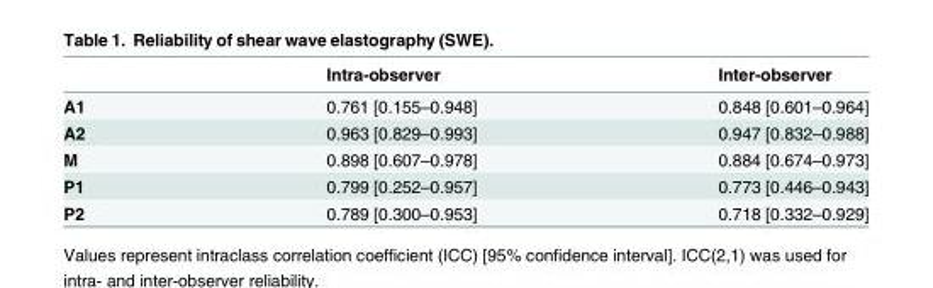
<table><thead><tr><td></td><td>Intra-observer</td><td>Inter-observer</td></tr></thead><tbody><tr><td>A1</td><td>0.761 [0.155–0.948]</td><td>0.848 [0.601–0.964]</td></tr><tr><td>A2</td><td>0.963 [0.829–0.993]</td><td>0.947 [0.832–0.988]</td></tr><tr><td>M</td><td>0.898 [0.607–0.978]</td><td>0.884 [0.674–0.973]</td></tr><tr><td>P1</td><td>0.799 [0.252–0.957]</td><td>0.773 [0.446–0.943]</td></tr><tr><td>P2</td><td>0.789 [0.300–0.953]</td><td>0.718 [0.332–0.929]</td></tr></tbody></table>